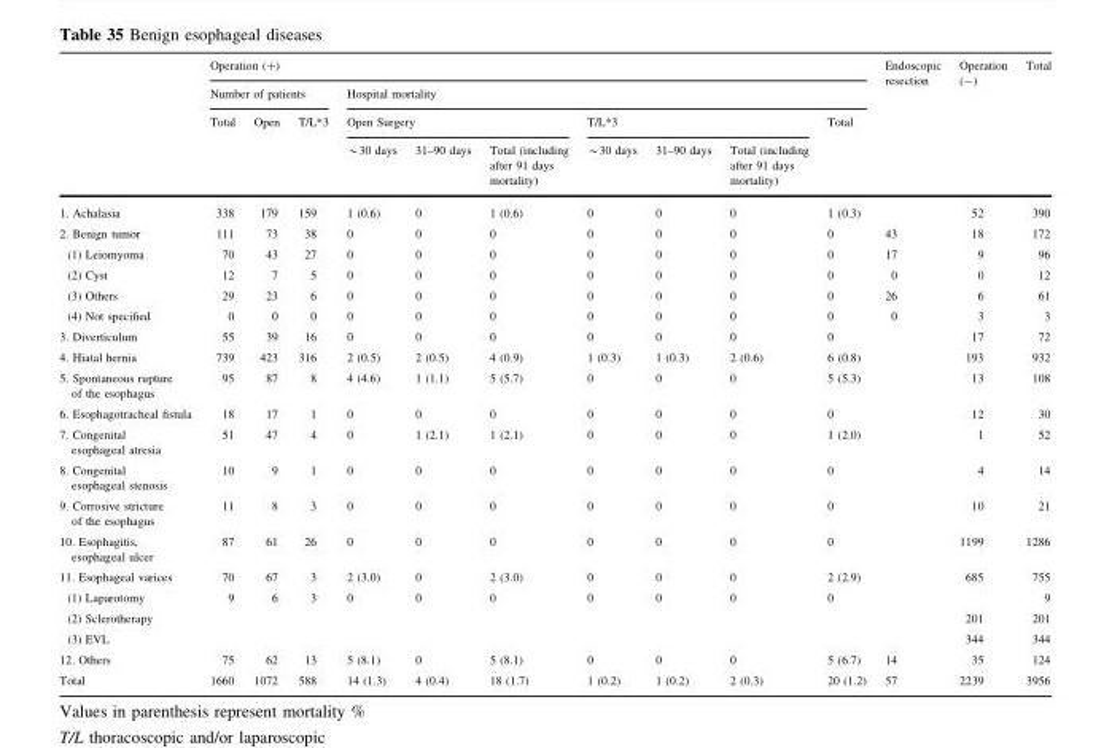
<table><thead><tr><td rowspan="4"></td><td colspan="10">Operation (+)</td><td rowspan="4">Endoscopic resection</td><td rowspan="4">Operation (-)</td><td rowspan="4">Total</td></tr><tr><td colspan="3">Number of patients</td><td colspan="7">Hospital mortality</td></tr><tr><td rowspan="2">Total</td><td rowspan="2">Open</td><td rowspan="2">T/L*3</td><td colspan="3">Open Surgery</td><td colspan="3">T/L*3</td><td rowspan="2">Total</td></tr><tr><td>*30 days</td><td>31–90 days</td><td>Total (including after 91 days mortality)</td><td>*30 days</td><td>31–90 days</td><td>Total (including after 91 days mortality)</td></tr></thead><tbody><tr><td>1. Achalasia</td><td>338</td><td>179</td><td>159</td><td>1 (0.6)</td><td>0</td><td>1 (0.6)</td><td>0</td><td>0</td><td>0</td><td>1 (0.3)</td><td></td><td>52</td><td>390</td></tr><tr><td>2. Benign tumor</td><td>111</td><td>73</td><td>38</td><td>0</td><td>0</td><td>0</td><td>0</td><td>0</td><td>0</td><td>0</td><td>43</td><td>18</td><td>172</td></tr><tr><td>(1) Leiomyoma</td><td>70</td><td>43</td><td>27</td><td>0</td><td>0</td><td>0</td><td>0</td><td>0</td><td>0</td><td>0</td><td>17</td><td>9</td><td>96</td></tr><tr><td>(2) Cyst</td><td>12</td><td>7</td><td>5</td><td>0</td><td>0</td><td>0</td><td>0</td><td>0</td><td>0</td><td>0</td><td>0</td><td>0</td><td>12</td></tr><tr><td>(3) Others</td><td>29</td><td>23</td><td>6</td><td>0</td><td>0</td><td>0</td><td>0</td><td>0</td><td>0</td><td>0</td><td>26</td><td>6</td><td>61</td></tr><tr><td>(4) Not specified</td><td>0</td><td>0</td><td>0</td><td>0</td><td>0</td><td>0</td><td>0</td><td>0</td><td>0</td><td>0</td><td>0</td><td>3</td><td>3</td></tr><tr><td>3. Diverticulum</td><td>55</td><td>39</td><td>16</td><td>0</td><td>0</td><td>0</td><td>0</td><td>0</td><td>0</td><td>0</td><td></td><td>17</td><td>72</td></tr><tr><td>4. Hiatal hernia</td><td>739</td><td>423</td><td>316</td><td>2 (0.5)</td><td>2 (0.5)</td><td>4 (0.9)</td><td>1 (0.3)</td><td>1 (0.3)</td><td>2 (0.6)</td><td>6 (0.8)</td><td></td><td>193</td><td>932</td></tr><tr><td>5. Spontaneous rupture of the esophagus</td><td>95</td><td>87</td><td>8</td><td>4 (4.6)</td><td>1 (1.1)</td><td>5 (5.7)</td><td>0</td><td>0</td><td>0</td><td>5 (5.3)</td><td></td><td>13</td><td>108</td></tr><tr><td>6. Esophagotracheal fistula</td><td>18</td><td>17</td><td>1</td><td>0</td><td>0</td><td>0</td><td>0</td><td>0</td><td>0</td><td>0</td><td></td><td>12</td><td>30</td></tr><tr><td>7. Congenital esophageal atresia</td><td>51</td><td>47</td><td>4</td><td>0</td><td>1 (2.1)</td><td>1 (2.1)</td><td>0</td><td>0</td><td>0</td><td>1 (2.0)</td><td></td><td>1</td><td>52</td></tr><tr><td>8. Congenital esophageal stenosis</td><td>10</td><td>9</td><td>1</td><td>0</td><td>0</td><td>0</td><td>0</td><td>0</td><td>0</td><td>0</td><td></td><td>4</td><td>14</td></tr><tr><td>9. Corrosive stricture of the esophagus</td><td>11</td><td>8</td><td>3</td><td>0</td><td>0</td><td>0</td><td>0</td><td>0</td><td>0</td><td>0</td><td></td><td>10</td><td>21</td></tr><tr><td>10. Esophagitis, esophageal ulcer</td><td>87</td><td>61</td><td>26</td><td>0</td><td>0</td><td>0</td><td>0</td><td>0</td><td>0</td><td>0</td><td></td><td>1199</td><td>1286</td></tr><tr><td>11. Esophageal varices</td><td>70</td><td>67</td><td>3</td><td>2 (3.0)</td><td>0</td><td>2 (3.0)</td><td>0</td><td>0</td><td>0</td><td>2 (2.9)</td><td></td><td>685</td><td>755</td></tr><tr><td>(1) Laparotomy</td><td>9</td><td>6</td><td>3</td><td>0</td><td>0</td><td>0</td><td>0</td><td>0</td><td>0</td><td>0</td><td></td><td></td><td>9</td></tr><tr><td>(2) Sclerotherapy</td><td></td><td></td><td></td><td></td><td></td><td></td><td></td><td></td><td></td><td></td><td></td><td>201</td><td>201</td></tr><tr><td>(3) EVL</td><td></td><td></td><td></td><td></td><td></td><td></td><td></td><td></td><td></td><td></td><td></td><td>344</td><td>344</td></tr><tr><td>12. Others</td><td>75</td><td>62</td><td>13</td><td>5 (8.1)</td><td>0</td><td>5 (8.1)</td><td>0</td><td>0</td><td>0</td><td>5 (6.7)</td><td>14</td><td>35</td><td>124</td></tr><tr><td>Total</td><td>1660</td><td>1072</td><td>588</td><td>14 (1.3)</td><td>4 (0.4)</td><td>18 (1.7)</td><td>1 (0.2)</td><td>1 (0.2)</td><td>2 (0.3)</td><td>20 (1.2)</td><td>57</td><td>2239</td><td>3956</td></tr></tbody></table>